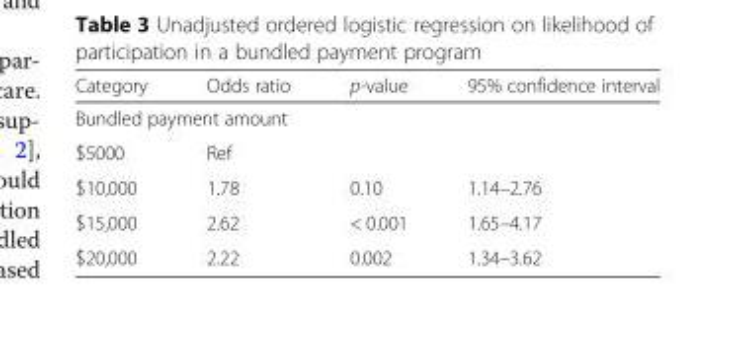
<table><thead><tr><td>Category</td><td>Odds ratio</td><td>p-value</td><td>95% confidence interval</td></tr></thead><tbody><tr><td colspan="4">Bundled payment amount</td></tr><tr><td>$5000</td><td>Ref</td><td></td><td></td></tr><tr><td>$10,000</td><td>1.78</td><td>0.10</td><td>1.14–2.76</td></tr><tr><td>$15,000</td><td>2.62</td><td>&lt; 0.001</td><td>1.65–4.17</td></tr><tr><td>$20,000</td><td>2.22</td><td>0.002</td><td>1.34–3.62</td></tr></tbody></table>